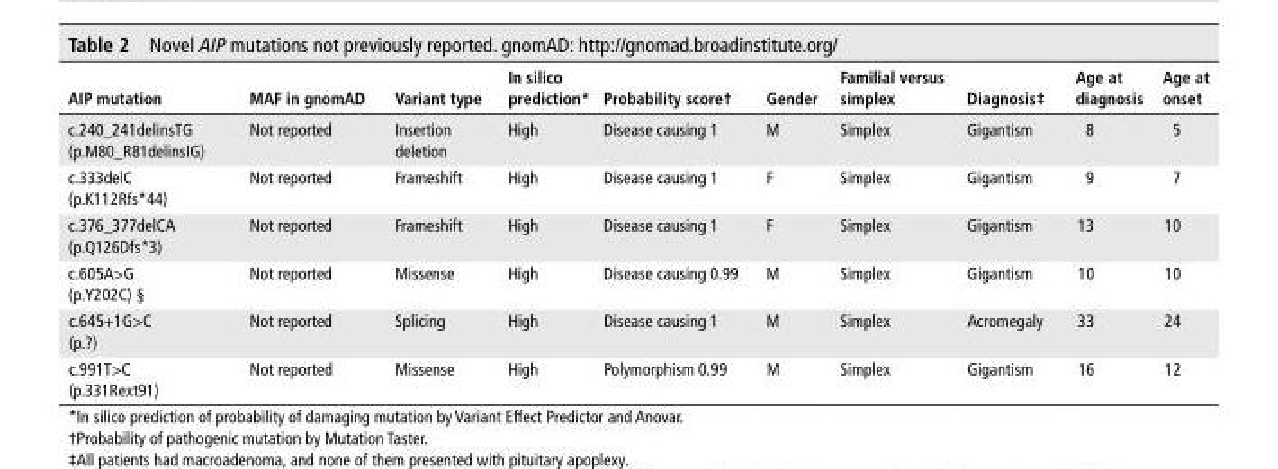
<table><thead><tr><td>AIP mutation</td><td>MAF in gnomAd</td><td>Variant type</td><td>In silico prediction*</td><td>Probability score†</td><td>Gender</td><td>Familial versus simplex</td><td>diagnosis‡</td><td>Age at diagnosis</td><td>Age at onset</td></tr></thead><tbody><tr><td>c.240_241delinsTG (p.M80_R81delinsIG)</td><td>Not reported</td><td>Insertion deletion</td><td>High</td><td>Disease causing 1</td><td>M</td><td>Simplex</td><td>Gigantism</td><td>8</td><td>5</td></tr><tr><td>c.333delC (p.K112Rfs*44)</td><td>Not reported</td><td>Frameshift</td><td>High</td><td>Disease causing 1</td><td>F</td><td>Simplex</td><td>Gigantism</td><td>9</td><td>7</td></tr><tr><td>c.376_377delCA (p.Q126Dfs*3)</td><td>Not reported</td><td>Frameshift</td><td>High</td><td>Disease causing 1</td><td>F</td><td>Simplex</td><td>Gigantism</td><td>13</td><td>10</td></tr><tr><td>c.605A&gt;G (p.Y202C) §</td><td>Not reported</td><td>Missense</td><td>High</td><td>Disease causing 0.99</td><td>M</td><td>Simplex</td><td>Gigantism</td><td>10</td><td>10</td></tr><tr><td>c.645+1G&gt;C (p.?)</td><td>Not reported</td><td>Splicing</td><td>High</td><td>Disease causing 1</td><td>M</td><td>Simplex</td><td>Acromegaly</td><td>33</td><td>24</td></tr><tr><td>c.991T&gt;C (p.331Rext91)</td><td>Not reported</td><td>Missense</td><td>High</td><td>Polymorphism 0.99</td><td>M</td><td>Simplex</td><td>Gigantism</td><td>16</td><td>12</td></tr></tbody></table>